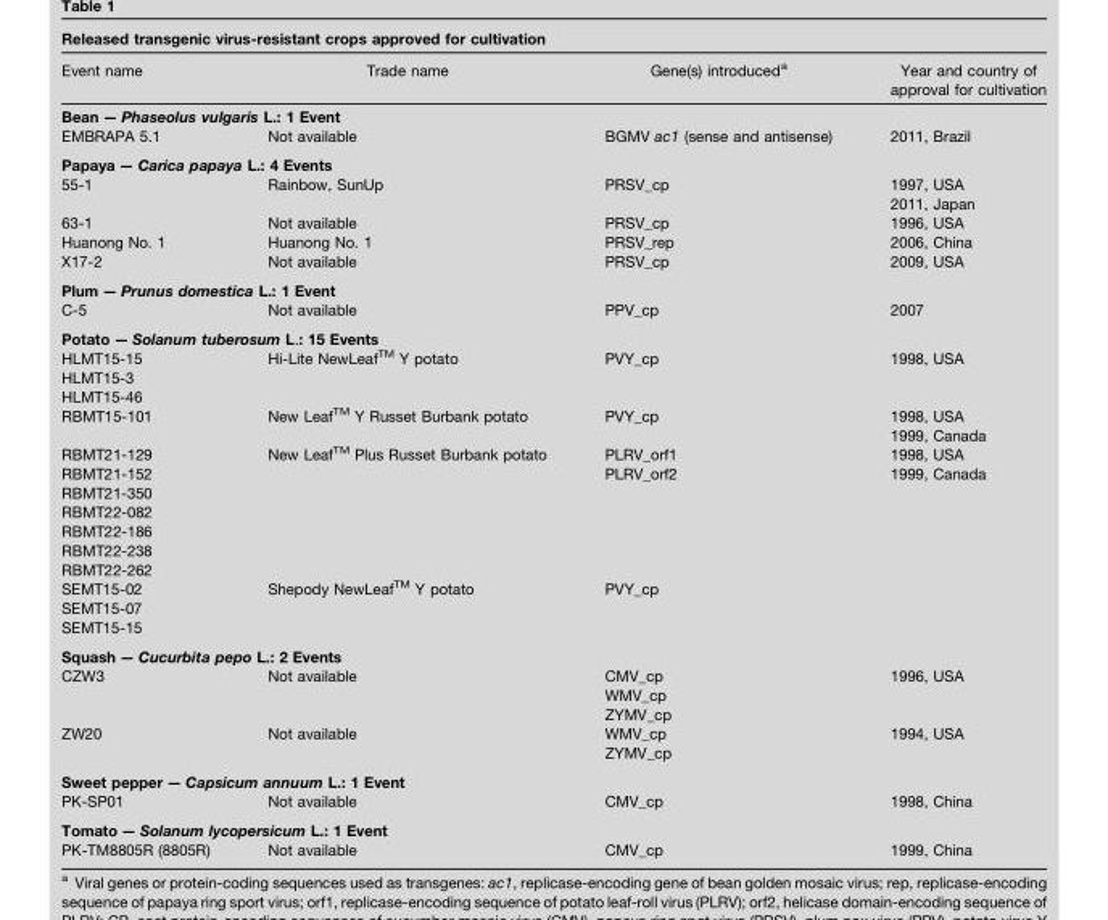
<table><thead><tr><td>Event name</td><td>Trade name</td><td>Gene(s) introduced<sup>a</sup></td><td>Year and country of approval for cultivation</td></tr></thead><tbody><tr><td colspan="4">Bean — Phaseolus vulgaris L.: 1 Event</td></tr><tr><td>EMBRAPA 5.1</td><td>Not available</td><td>BGMV ac1 (sense and antisense)</td><td>2011, Brazil</td></tr><tr><td colspan="4">Papaya — Carica papaya L.: 4 Events</td></tr><tr><td>55-1</td><td>Rainbow, SunUp</td><td>PRSV_cp</td><td>1997, USA 2011, Japan</td></tr><tr><td>63-1</td><td>Not available</td><td>PRSV_cp</td><td>1996, USA</td></tr><tr><td>Huanong No. 1</td><td>Huanong No. 1</td><td>PRSV_rep</td><td>2006, China</td></tr><tr><td>X17-2</td><td>Not available</td><td>PRSV_cp</td><td>2009, USA</td></tr><tr><td colspan="4">Plum — Prunus domestica L.: 1 Event</td></tr><tr><td>C-5</td><td>Not available</td><td>PPV_cp</td><td>2007</td></tr><tr><td colspan="4">Potato — Solanum tuberosum L.: 15 Events</td></tr><tr><td>HLMT15-15 HLMT15-3 HLMT15-46</td><td>Hi-Lite NewLeafTM Y potato</td><td>PVY_cp</td><td>1998, USA</td></tr><tr><td>RBMT15-101</td><td>New LeafTM Y Russet Burbank potato</td><td>PVY_cp</td><td>1998, USA 1999, Canada</td></tr><tr><td>RBMT21-129 RBMT21-152 RBMT21-350 RBMT22-082 RBMT22-186 RBMT22-238 RBMT22-262</td><td>New LeafTM Plus Russet Burbank potato</td><td>PLRV_orf1 PLRV_orf2</td><td>1998, USA 1999, Canada</td></tr><tr><td>SEMT15-02 SEMT15-07 SEMT15-15</td><td>Shepody NewLeafTM Y potato</td><td>PVY_cp</td><td></td></tr><tr><td colspan="4">Squash — Cucurbita pepo L.: 2 Events</td></tr><tr><td>CZW3</td><td>Not available</td><td>CMV_cp WMV_cp ZYMV_cp</td><td>1996, USA</td></tr><tr><td>ZW20</td><td>Not available</td><td>WMV_cp ZYMV_cp</td><td>1994, USA</td></tr><tr><td colspan="4">Sweet pepper — Capsicum annuum L.: 1 Event</td></tr><tr><td>PK-SP01</td><td>Not available</td><td>CMV_cp</td><td>1998, China</td></tr><tr><td colspan="4">Tomato — Solanum lycopersicum L.: 1 Event</td></tr><tr><td>PK-TM8805R (8805R)</td><td>Not available</td><td>CMV_cp</td><td>1999, China</td></tr></tbody></table>